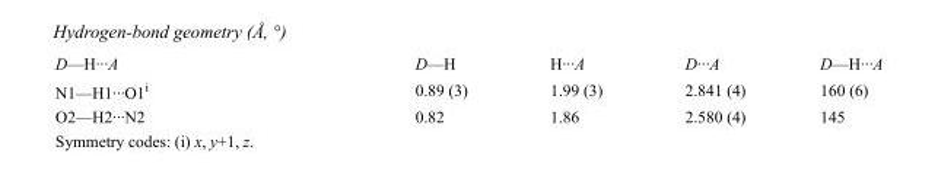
<table><tbody><tr><td>D—H···A</td><td>D—H</td><td>H···A</td><td>D···A</td><td>D—H···A</td></tr><tr><td>N1—H1···O1<sup>i</sup></td><td>0.89 (3)</td><td>1.99 (3)</td><td>2.841 (4)</td><td>160 (6)</td></tr><tr><td>O2—H2···N2</td><td>0.82</td><td>1.86</td><td>2.580 (4)</td><td>145</td></tr></tbody></table>